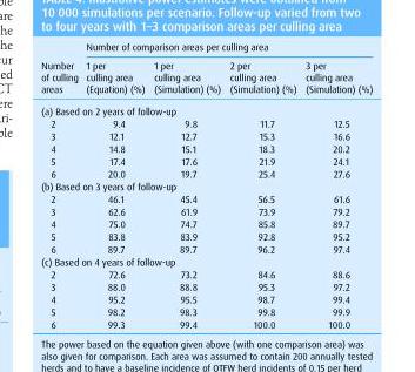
<table><thead><tr><td rowspan="2">Number of culling areas</td><td colspan="4">Number of comparison areas per culling area</td></tr><tr><td>1 per culling area (Equation) (%)</td><td>1 per culling area (Simulation) (%)</td><td>2 per culling area (Simulation) (%)</td><td>3 per culling area (Simulation) (%)</td></tr></thead><tbody><tr><td colspan="5">(a) Based on 2 years of follow-up</td></tr><tr><td>2</td><td>9.4</td><td>9.8</td><td>11.7</td><td>12.5</td></tr><tr><td>3</td><td>12.1</td><td>12.7</td><td>15.3</td><td>16.6</td></tr><tr><td>4</td><td>14.8</td><td>15.1</td><td>18.3</td><td>20.2</td></tr><tr><td>5</td><td>17.4</td><td>17.6</td><td>21.9</td><td>24.1</td></tr><tr><td>6</td><td>20.0</td><td>19.7</td><td>25.4</td><td>27.6</td></tr><tr><td colspan="5">(b) Based on 3 years of follow-up</td></tr><tr><td>2</td><td>46.1</td><td>45.4</td><td>56.5</td><td>61.6</td></tr><tr><td>3</td><td>62.6</td><td>61.9</td><td>73.9</td><td>79.2</td></tr><tr><td>4</td><td>75.0</td><td>74.7</td><td>85.8</td><td>89.7</td></tr><tr><td>5</td><td>83.8</td><td>83.9</td><td>92.8</td><td>95.2</td></tr><tr><td>6</td><td>89.7</td><td>89.7</td><td>96.2</td><td>97.4</td></tr><tr><td colspan="5">(c) Based on 4 years of follow-up</td></tr><tr><td>2</td><td>72.6</td><td>73.2</td><td>84.6</td><td>88.6</td></tr><tr><td>3</td><td>88.0</td><td>88.8</td><td>95.3</td><td>97.2</td></tr><tr><td>4</td><td>95.2</td><td>95.5</td><td>98.7</td><td>99.4</td></tr><tr><td>5</td><td>98.2</td><td>98.3</td><td>99.8</td><td>99.9</td></tr><tr><td>6</td><td>99.3</td><td>99.4</td><td>100.0</td><td>100.0</td></tr></tbody></table>